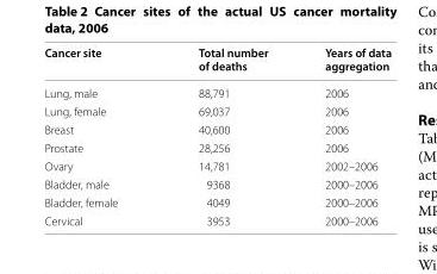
<table><thead><tr><td>Cancer site</td><td>Total number of deaths</td><td>Years of data aggregation</td></tr></thead><tbody><tr><td>Lung, male</td><td>88,791</td><td>2006</td></tr><tr><td>Lung, female</td><td>69,037</td><td>2006</td></tr><tr><td>Breast</td><td>40,600</td><td>2006</td></tr><tr><td>Prostate</td><td>28,256</td><td>2006</td></tr><tr><td>Ovary</td><td>14,781</td><td>2002–2006</td></tr><tr><td>Bladder, male</td><td>9368</td><td>2000–2006</td></tr><tr><td>Bladder, female</td><td>4049</td><td>2000–2006</td></tr><tr><td>Cervical</td><td>3953</td><td>2000–2006</td></tr></tbody></table>